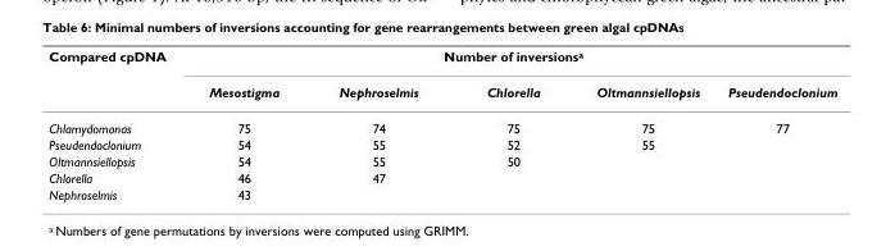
<table><thead><tr><td rowspan="2">Compared cpDNA</td><td colspan="5">Number of inversionsa</td></tr><tr><td>Mesostigma</td><td>Nephroselmis</td><td>Chlorella</td><td>Oltmannsiellopsis</td><td>Pseudendoclonium</td></tr></thead><tbody><tr><td>Chlamydomonas</td><td>75</td><td>74</td><td>75</td><td>75</td><td>77</td></tr><tr><td>Pseudendoclonium</td><td>54</td><td>55</td><td>52</td><td>55</td><td></td></tr><tr><td>Oltmannsiellopsis</td><td>54</td><td>55</td><td>50</td><td></td><td></td></tr><tr><td>Chlorella</td><td>46</td><td>47</td><td></td><td></td><td></td></tr><tr><td>Nephroselmis</td><td>43</td><td></td><td></td><td></td><td></td></tr></tbody></table>